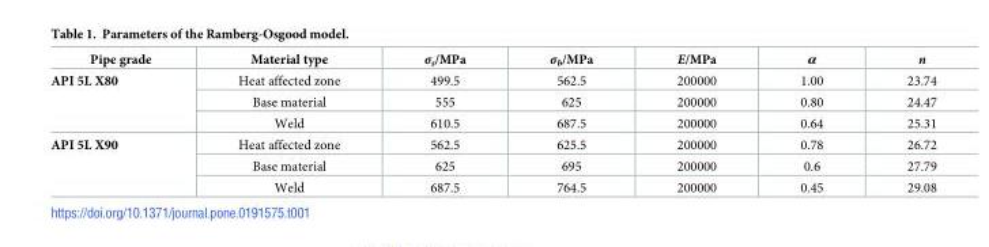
<table><thead><tr><td>Pipe grade</td><td>Material type</td><td>σ<sub>s</sub>/MPa</td><td>σ<sub>b</sub>/MPa</td><td>E/MPa</td><td>α</td><td>n</td></tr></thead><tbody><tr><td rowspan="3">API 5L X80</td><td>Heat affected zone</td><td>499.5</td><td>562.5</td><td>200000</td><td>1.00</td><td>23.74</td></tr><tr><td>Base material</td><td>555</td><td>625</td><td>200000</td><td>0.80</td><td>24.47</td></tr><tr><td>Weld</td><td>610.5</td><td>687.5</td><td>200000</td><td>0.64</td><td>25.31</td></tr><tr><td rowspan="3">API 5L X90</td><td>Heat affected zone</td><td>562.5</td><td>625.5</td><td>200000</td><td>0.78</td><td>26.72</td></tr><tr><td>Base material</td><td>625</td><td>695</td><td>200000</td><td>0.6</td><td>27.79</td></tr><tr><td>Weld</td><td>687.5</td><td>764.5</td><td>200000</td><td>0.45</td><td>29.08</td></tr></tbody></table>